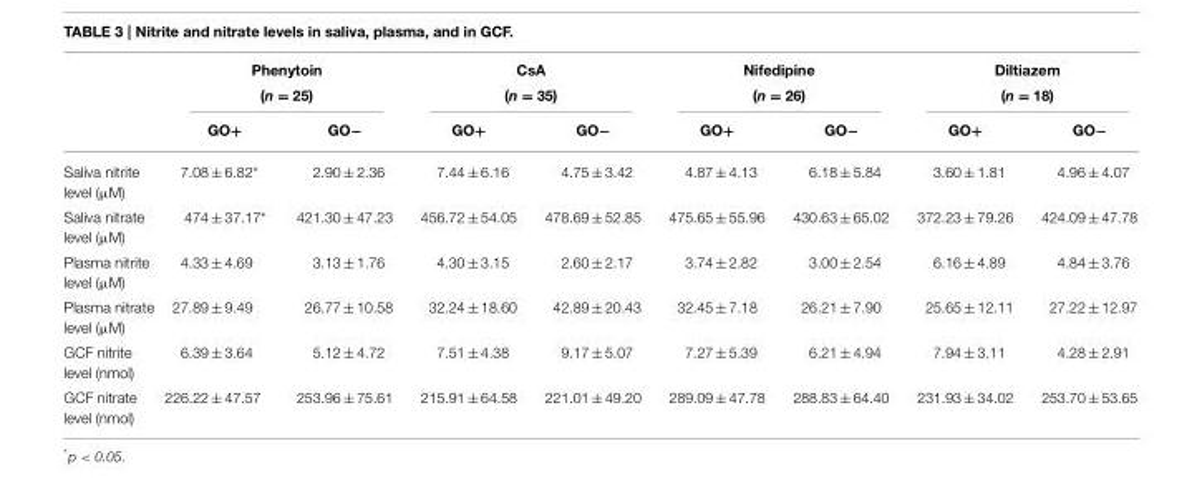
<table><thead><tr><td rowspan="2"></td><td colspan="2">Phenytoin (n = 25)</td><td colspan="2">CsA (n = 35)</td><td colspan="2">Nifedipine (n = 26)</td><td colspan="2">Diltiazem (n = 18)</td></tr><tr><td>GO+</td><td>GO−</td><td>GO+</td><td>GO−</td><td>GO+</td><td>GO−</td><td>GO+</td><td>GO−</td></tr></thead><tbody><tr><td>Saliva nitrite level (µM)</td><td>7.08 ± 6.82*</td><td>2.90 ± 2.36</td><td>7.44 ± 6.16</td><td>4.75 ± 3.42</td><td>4.87 ± 4.13</td><td>6.18 ± 5.84</td><td>3.60 ± 1.81</td><td>4.96 ± 4.07</td></tr><tr><td>Saliva nitrate level (µM)</td><td>474 ± 37.17*</td><td>421.30 ± 47.23</td><td>456.72 ± 54.05</td><td>478.69 ± 52.85</td><td>475.65 ± 55.96</td><td>430.63 ± 65.02</td><td>372.23 ± 79.26</td><td>424.09 ± 47.78</td></tr><tr><td>Plasma nitrite level (µM)</td><td>4.33 ± 4.69</td><td>3.13 ± 1.76</td><td>4.30 ± 3.15</td><td>2.60 ± 2.17</td><td>3.74 ± 2.82</td><td>3.00 ± 2.54</td><td>6.16 ± 4.89</td><td>4.84 ± 3.76</td></tr><tr><td>Plasma nitrate level (µM)</td><td>27.89 ± 9.49</td><td>26.77 ± 10.58</td><td>32.24 ± 18.60</td><td>42.89 ± 20.43</td><td>32.45 ± 7.18</td><td>26.21 ± 7.90</td><td>25.65 ± 12.11</td><td>27.22 ± 12.97</td></tr><tr><td>GCF nitrite level (nmol)</td><td>6.39 ± 3.64</td><td>5.12 ± 4.72</td><td>7.51 ± 4.38</td><td>9.17 ± 5.07</td><td>7.27 ± 5.39</td><td>6.21 ± 4.94</td><td>7.94 ± 3.11</td><td>4.28 ± 2.91</td></tr><tr><td>GCF nitrate level (nmol)</td><td>226.22 ± 47.57</td><td>253.96 ± 75.61</td><td>215.91 ± 64.58</td><td>221.01 ± 49.20</td><td>289.09 ± 47.78</td><td>288.83 ± 64.40</td><td>231.93 ± 34.02</td><td>253.70 ± 53.65</td></tr></tbody></table>